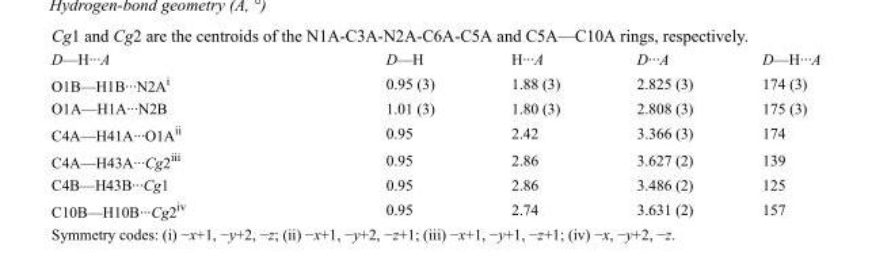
<table><tbody><tr><td>D—H···A</td><td>D—H</td><td>H···A</td><td>D···A</td><td>D—H···A</td></tr><tr><td>O1B—H1B···N2A<sup>i</sup></td><td>0.95 (3)</td><td>1.88 (3)</td><td>2.825 (3)</td><td>174 (3)</td></tr><tr><td>O1A—H1A···N2B</td><td>1.01 (3)</td><td>1.80 (3)</td><td>2.808 (3)</td><td>175 (3)</td></tr><tr><td>C4A—H41A···O1A<sup>ii</sup></td><td>0.95</td><td>2.42</td><td>3.366 (3)</td><td>174</td></tr><tr><td>C4A—H43A···Cg2<sup>iii</sup></td><td>0.95</td><td>2.86</td><td>3.627 (2)</td><td>139</td></tr><tr><td>C4B—H43B···Cg1</td><td>0.95</td><td>2.86</td><td>3.486 (2)</td><td>125</td></tr><tr><td>C10B—H10B···Cg2<sup>iv</sup></td><td>0.95</td><td>2.74</td><td>3.631 (2)</td><td>157</td></tr></tbody></table>